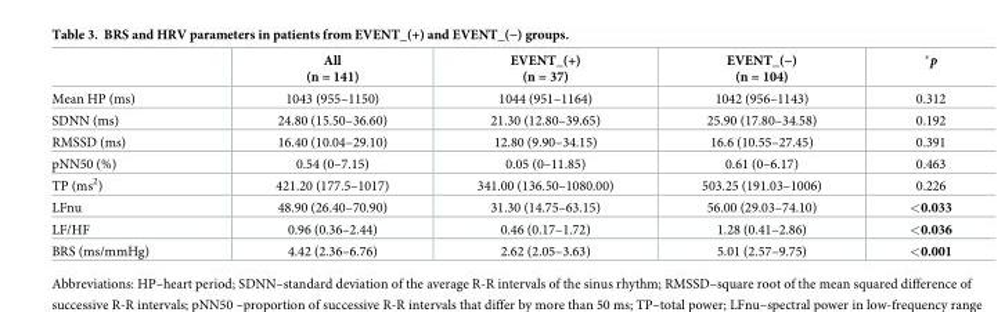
<table><thead><tr><td></td><td>All (n = 141)</td><td>EVENT_(+) (n = 37)</td><td>EVENT_(−) (n = 104)</td><td>*p</td></tr></thead><tbody><tr><td>Mean HP (ms)</td><td>1043 (955–1150)</td><td>1044 (951–1164)</td><td>1042 (956–1143)</td><td>0.312</td></tr><tr><td>SDNN (ms)</td><td>24.80 (15.50–36.60)</td><td>21.30 (12.80–39.65)</td><td>25.90 (17.80–34.58)</td><td>0.192</td></tr><tr><td>RMSSD (ms)</td><td>16.40 (10.04–29.10)</td><td>12.80 (9.90–34.15)</td><td>16.6 (10.55–27.45)</td><td>0.391</td></tr><tr><td>pNN50 (%)</td><td>0.54 (0–7.15)</td><td>0.05 (0–11.85)</td><td>0.61 (0–6.17)</td><td>0.463</td></tr><tr><td>TP (ms<sup>2</sup>)</td><td>421.20 (177.5–1017)</td><td>341.00 (136.50–1080.00)</td><td>503.25 (191.03–1006)</td><td>0.226</td></tr><tr><td>LFnu</td><td>48.90 (26.40–70.90)</td><td>31.30 (14.75–63.15)</td><td>56.00 (29.03–74.10)</td><td>&lt;0.033</td></tr><tr><td>LF/HF</td><td>0.96 (0.36–2.44)</td><td>0.46 (0.17–1.72)</td><td>1.28 (0.41–2.86)</td><td>&lt;0.036</td></tr><tr><td>BRS (ms/mmHg)</td><td>4.42 (2.36–6.76)</td><td>2.62 (2.05–3.63)</td><td>5.01 (2.57–9.75)</td><td>&lt;0.001</td></tr></tbody></table>